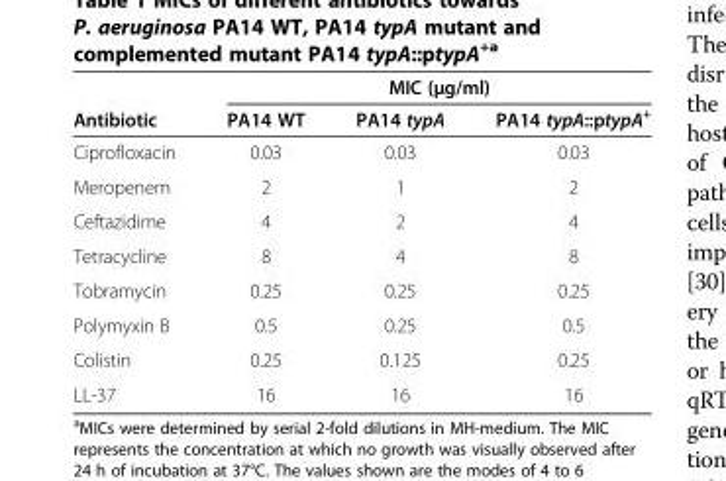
<table><thead><tr><td rowspan="2">Antibiotic</td><td colspan="3">MIC (μg/ml)</td></tr><tr><td>PA14 WT</td><td>PA14 typA</td><td>PA14 typA::ptypA<sup>+</sup></td></tr></thead><tbody><tr><td>Ciprofloxacin</td><td>0.03</td><td>0.03</td><td>0.03</td></tr><tr><td>Meropenem</td><td>2</td><td>1</td><td>2</td></tr><tr><td>Ceftazidime</td><td>4</td><td>2</td><td>4</td></tr><tr><td>Tetracycline</td><td>8</td><td>4</td><td>8</td></tr><tr><td>Tobramycin</td><td>0.25</td><td>0.25</td><td>0.25</td></tr><tr><td>Polymyxin B</td><td>0.5</td><td>0.25</td><td>0.5</td></tr><tr><td>Colistin</td><td>0.25</td><td>0.125</td><td>0.25</td></tr><tr><td>LL-37</td><td>16</td><td>16</td><td>16</td></tr></tbody></table>